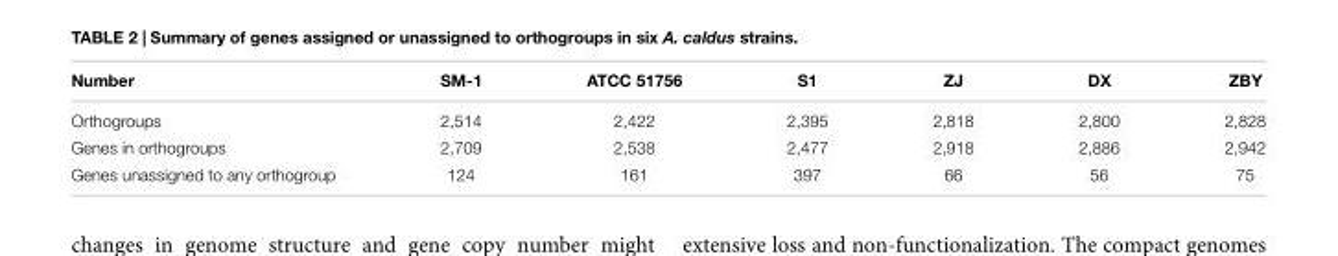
<table><thead><tr><td>Number</td><td>SM-1</td><td>ATCC 51756</td><td>S1</td><td>ZJ</td><td>DX</td><td>ZBY</td></tr></thead><tbody><tr><td>Orthogroups</td><td>2,514</td><td>2,422</td><td>2,395</td><td>2,818</td><td>2,800</td><td>2,828</td></tr><tr><td>Genes in orthogroups</td><td>2,709</td><td>2,538</td><td>2,477</td><td>2,918</td><td>2,886</td><td>2,942</td></tr><tr><td>Genes unassigned to any orthogroup</td><td>124</td><td>161</td><td>397</td><td>66</td><td>56</td><td>75</td></tr></tbody></table>